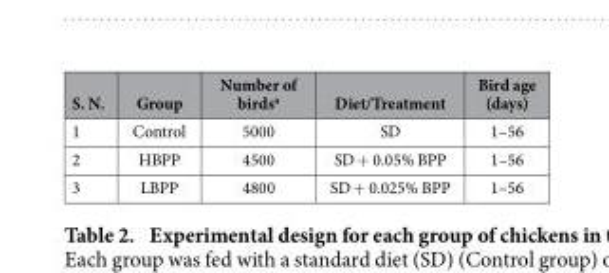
<table><thead><tr><td>S. N.</td><td>Group</td><td>Number of birds<sup>a</sup></td><td>Diet/Treatment</td><td>Bird age (days)</td></tr></thead><tbody><tr><td>1</td><td>Control</td><td>5000</td><td>SD</td><td>1–56</td></tr><tr><td>2</td><td>HBPP</td><td>4500</td><td>SD + 0.05% BPP</td><td>1–56</td></tr><tr><td>3</td><td>LBPP</td><td>4800</td><td>SD + 0.025% BPP</td><td>1–56</td></tr></tbody></table>